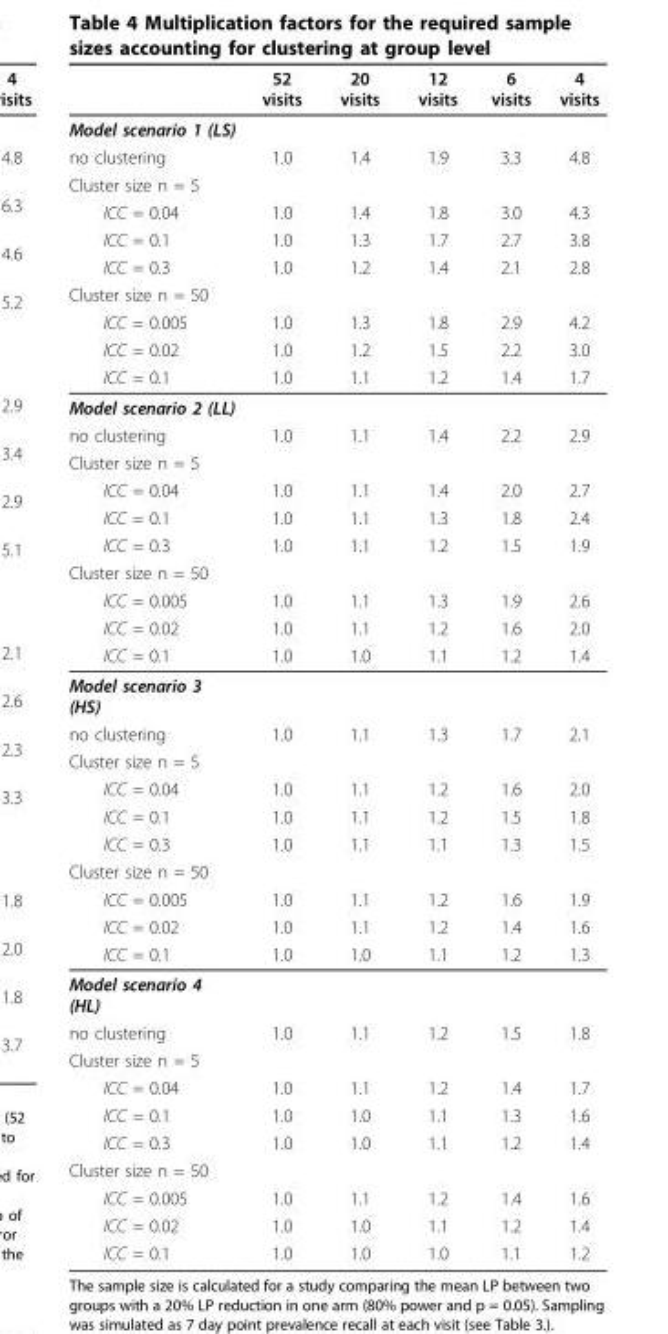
<table><thead><tr><td></td><td>52 visits</td><td>20 visits</td><td>12 visits</td><td>6 visits</td><td>4 visits</td></tr></thead><tbody><tr><td colspan="6">Model scenario 1 (LS)</td></tr><tr><td>no clustering</td><td>1.0</td><td>1.4</td><td>1.9</td><td>3.3</td><td>4.8</td></tr><tr><td colspan="6">Cluster size n = 5</td></tr><tr><td>ICC = 0.04</td><td>1.0</td><td>1.4</td><td>1.8</td><td>3.0</td><td>4.3</td></tr><tr><td>ICC = 0.1</td><td>1.0</td><td>1.3</td><td>1.7</td><td>2.7</td><td>3.8</td></tr><tr><td>ICC = 0.3</td><td>1.0</td><td>1.2</td><td>1.4</td><td>2.1</td><td>2.8</td></tr><tr><td colspan="6">Cluster size n = 50</td></tr><tr><td>ICC = 0.005</td><td>1.0</td><td>1.3</td><td>1.8</td><td>2.9</td><td>4.2</td></tr><tr><td>ICC = 0.02</td><td>1.0</td><td>1.2</td><td>1.5</td><td>2.2</td><td>3.0</td></tr><tr><td>ICC = 0.1</td><td>1.0</td><td>1.1</td><td>1.2</td><td>1.4</td><td>1.7</td></tr><tr><td colspan="6">Model scenario 2 (LL)</td></tr><tr><td>no clustering</td><td>1.0</td><td>1.1</td><td>1.4</td><td>2.2</td><td>2.9</td></tr><tr><td colspan="6">Cluster size n = 5</td></tr><tr><td>ICC = 0.04</td><td>1.0</td><td>1.1</td><td>1.4</td><td>2.0</td><td>2.7</td></tr><tr><td>ICC = 0.1</td><td>1.0</td><td>1.1</td><td>1.3</td><td>1.8</td><td>2.4</td></tr><tr><td>ICC = 0.3</td><td>1.0</td><td>1.1</td><td>1.2</td><td>1.5</td><td>1.9</td></tr><tr><td colspan="6">Cluster size n = 50</td></tr><tr><td>ICC = 0.005</td><td>1.0</td><td>1.1</td><td>1.3</td><td>1.9</td><td>2.6</td></tr><tr><td>ICC = 0.02</td><td>1.0</td><td>1.1</td><td>1.2</td><td>1.6</td><td>2.0</td></tr><tr><td>ICC = 0.1</td><td>1.0</td><td>1.0</td><td>1.1</td><td>1.2</td><td>1.4</td></tr><tr><td colspan="6">Model scenario 3 (HS)</td></tr><tr><td>no clustering</td><td>1.0</td><td>1.1</td><td>1.3</td><td>1.7</td><td>2.1</td></tr><tr><td colspan="6">Cluster size n = 5</td></tr><tr><td>ICC = 0.04</td><td>1.0</td><td>1.1</td><td>1.2</td><td>1.6</td><td>2.0</td></tr><tr><td>ICC = 0.1</td><td>1.0</td><td>1.1</td><td>1.2</td><td>1.5</td><td>1.8</td></tr><tr><td>ICC = 0.3</td><td>1.0</td><td>1.1</td><td>1.1</td><td>1.3</td><td>1.5</td></tr><tr><td colspan="6">Cluster size n = 50</td></tr><tr><td>ICC = 0.005</td><td>1.0</td><td>1.1</td><td>1.2</td><td>1.6</td><td>1.9</td></tr><tr><td>ICC = 0.02</td><td>1.0</td><td>1.1</td><td>1.2</td><td>1.4</td><td>1.6</td></tr><tr><td>ICC = 0.1</td><td>1.0</td><td>1.0</td><td>1.1</td><td>1.2</td><td>1.3</td></tr><tr><td colspan="6">Model scenario 4 (HL)</td></tr><tr><td>no clustering</td><td>1.0</td><td>1.1</td><td>1.2</td><td>1.5</td><td>1.8</td></tr><tr><td colspan="6">Cluster size n = 5</td></tr><tr><td>ICC = 0.04</td><td>1.0</td><td>1.1</td><td>1.2</td><td>1.4</td><td>1.7</td></tr><tr><td>ICC = 0.1</td><td>1.0</td><td>1.0</td><td>1.1</td><td>1.3</td><td>1.6</td></tr><tr><td>ICC = 0.3</td><td>1.0</td><td>1.0</td><td>1.1</td><td>1.2</td><td>1.4</td></tr><tr><td colspan="6">Cluster size n = 50</td></tr><tr><td>ICC = 0.005</td><td>1.0</td><td>1.1</td><td>1.2</td><td>1.4</td><td>1.6</td></tr><tr><td>ICC = 0.02</td><td>1.0</td><td>1.0</td><td>1.1</td><td>1.2</td><td>1.4</td></tr><tr><td>ICC = 0.1</td><td>1.0</td><td>1.0</td><td>1.0</td><td>1.1</td><td>1.2</td></tr></tbody></table>